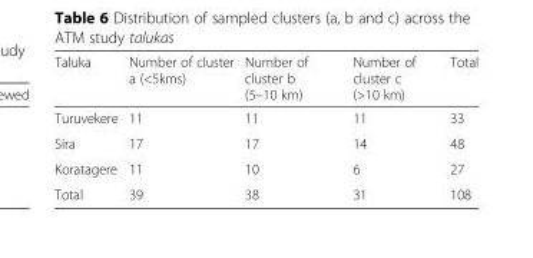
<table><thead><tr><td>Taluka</td><td>Number of cluster a (&lt;5kms)</td><td>Number of cluster b (5–10 km)</td><td>Number of cluster c (&gt;10 km)</td><td>Total</td></tr></thead><tbody><tr><td>Turuvekere</td><td>11</td><td>11</td><td>11</td><td>33</td></tr><tr><td>Sira</td><td>17</td><td>17</td><td>14</td><td>48</td></tr><tr><td>Koratagere</td><td>11</td><td>10</td><td>6</td><td>27</td></tr><tr><td>Total</td><td>39</td><td>38</td><td>31</td><td>108</td></tr></tbody></table>